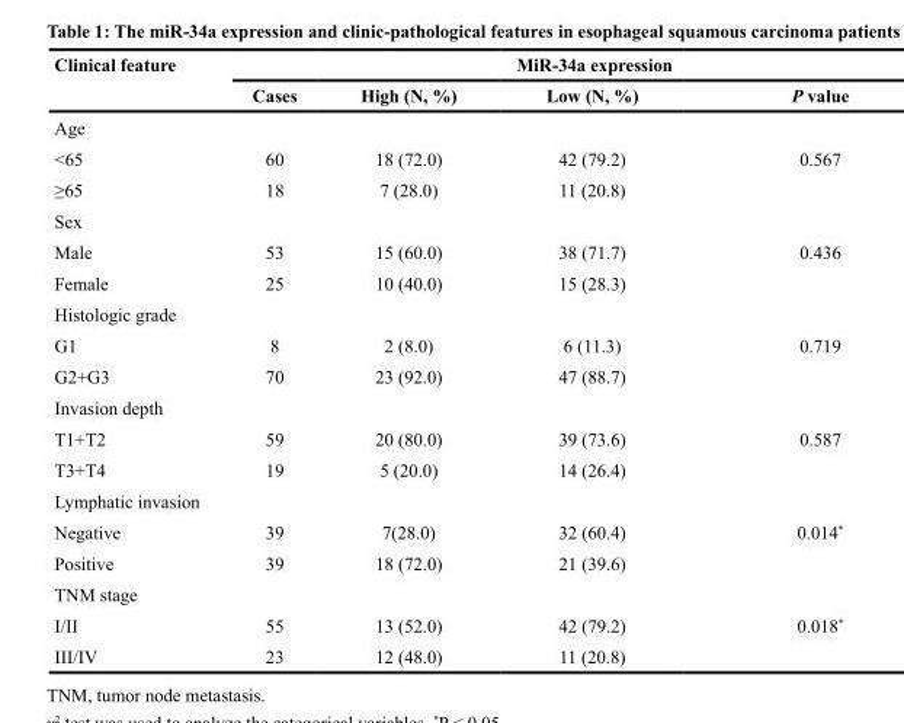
<table><thead><tr><td rowspan="2">Clinical feature</td><td colspan="4">MiR-34a expression</td></tr><tr><td>Cases</td><td>High (N, %)</td><td>Low (N, %)</td><td>P value</td></tr></thead><tbody><tr><td colspan="5">Age</td></tr><tr><td>&lt;65</td><td>60</td><td>18 (72.0)</td><td>42 (79.2)</td><td>0.567</td></tr><tr><td>≥65</td><td>18</td><td>7 (28.0)</td><td>11 (20.8)</td><td></td></tr><tr><td colspan="5">Sex</td></tr><tr><td>Male</td><td>53</td><td>15 (60.0)</td><td>38 (71.7)</td><td>0.436</td></tr><tr><td>Female</td><td>25</td><td>10 (40.0)</td><td>15 (28.3)</td><td></td></tr><tr><td colspan="5">Histologic grade</td></tr><tr><td>G1</td><td>8</td><td>2 (8.0)</td><td>6 (11.3)</td><td>0.719</td></tr><tr><td>G2+G3</td><td>70</td><td>23 (92.0)</td><td>47 (88.7)</td><td></td></tr><tr><td colspan="5">Invasion depth</td></tr><tr><td>T1+T2</td><td>59</td><td>20 (80.0)</td><td>39 (73.6)</td><td>0.587</td></tr><tr><td>T3+T4</td><td>19</td><td>5 (20.0)</td><td>14 (26.4)</td><td></td></tr><tr><td colspan="5">Lymphatic invasion</td></tr><tr><td>Negative</td><td>39</td><td>7(28.0)</td><td>32 (60.4)</td><td>0.014*</td></tr><tr><td>Positive</td><td>39</td><td>18 (72.0)</td><td>21 (39.6)</td><td></td></tr><tr><td colspan="5">TNM stage</td></tr><tr><td>I/II</td><td>55</td><td>13 (52.0)</td><td>42 (79.2)</td><td>0.018*</td></tr><tr><td>III/IV</td><td>23</td><td>12 (48.0)</td><td>11 (20.8)</td><td></td></tr></tbody></table>